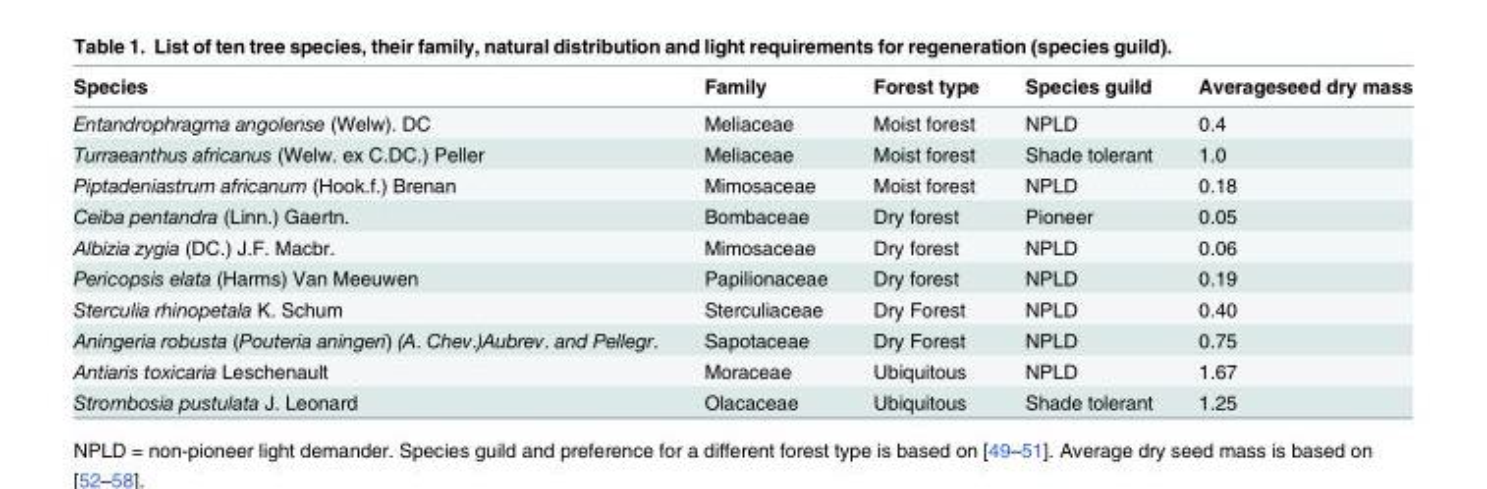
<table><thead><tr><td>Species</td><td>Family</td><td>Forest type</td><td>Species guild</td><td>Averageseed dry mass</td></tr></thead><tbody><tr><td>Entandrophragma angolense (Welw). DC</td><td>Meliaceae</td><td>Moist forest</td><td>NPLD</td><td>0.4</td></tr><tr><td>Turraeanthus africanus (Welw. ex C.DC.) Peller</td><td>Meliaceae</td><td>Moist forest</td><td>Shade tolerant</td><td>1.0</td></tr><tr><td>Piptadeniastrum africanum (Hook.f.) Brenan</td><td>Mimosaceae</td><td>Moist forest</td><td>NPLD</td><td>0.18</td></tr><tr><td>Ceiba pentandra (Linn.) Gaertn.</td><td>Bombaceae</td><td>Dry forest</td><td>Pioneer</td><td>0.05</td></tr><tr><td>Albizia zygia (DC.) J.F. Macbr.</td><td>Mimosaceae</td><td>Dry forest</td><td>NPLD</td><td>0.06</td></tr><tr><td>Pericopsis elata (Harms) Van Meeuwen</td><td>Papilionaceae</td><td>Dry forest</td><td>NPLD</td><td>0.19</td></tr><tr><td>Sterculia rhinopetala K. Schum</td><td>Sterculiaceae</td><td>Dry Forest</td><td>NPLD</td><td>0.40</td></tr><tr><td>Aningeria robusta (Pouteria aningeri) (A. Chev.)Aubrev. and Pellegr.</td><td>Sapotaceae</td><td>Dry Forest</td><td>NPLD</td><td>0.75</td></tr><tr><td>Antiaris toxicaria Leschenault</td><td>Moraceae</td><td>Ubiquitous</td><td>NPLD</td><td>1.67</td></tr><tr><td>Strombosia pustulata J. Leonard</td><td>Olacaceae</td><td>Ubiquitous</td><td>Shade tolerant</td><td>1.25</td></tr></tbody></table>